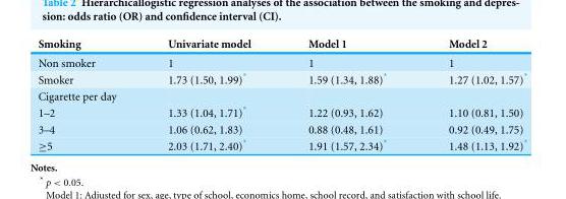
<table><thead><tr><td>Smoking</td><td>Univariate model</td><td>Model 1</td><td>Model 2</td></tr></thead><tbody><tr><td>Non smoker</td><td>1</td><td>1</td><td>1</td></tr><tr><td>Smoker</td><td>1.73 (1.50, 1.99)*</td><td>1.59 (1.34, 1.88)*</td><td>1.27 (1.02, 1.57)*</td></tr><tr><td colspan="4">Cigarette per day</td></tr><tr><td>1–2</td><td>1.33 (1.04, 1.71)*</td><td>1.22 (0.93, 1.62)</td><td>1.10 (0.81, 1.50)</td></tr><tr><td>3–4</td><td>1.06 (0.62, 1.83)</td><td>0.88 (0.48, 1.61)</td><td>0.92 (0.49, 1.75)</td></tr><tr><td>≥5</td><td>2.03 (1.71, 2.40)*</td><td>1.91 (1.57, 2.34)*</td><td>1.48 (1.13, 1.92)*</td></tr></tbody></table>